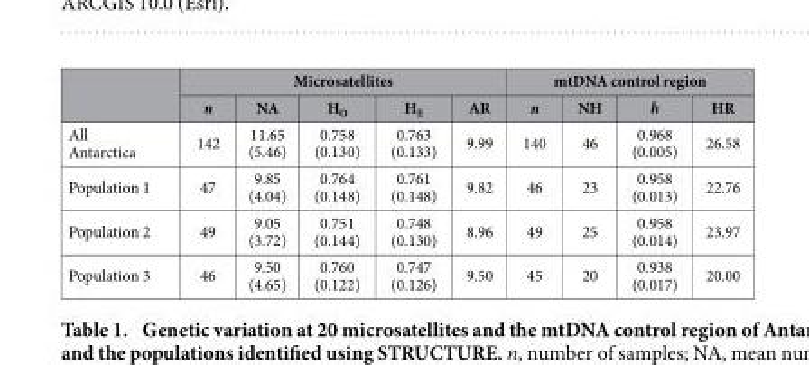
<table><thead><tr><td rowspan="2"></td><td colspan="5">Microsatellites</td><td colspan="4">mtDNA control region</td></tr><tr><td>n</td><td>NA</td><td>H<sub>O</sub></td><td>H<sub>E</sub></td><td>AR</td><td>n</td><td>NH</td><td>h</td><td>HR</td></tr></thead><tbody><tr><td>All Antarctica</td><td>142</td><td>11.65 (5.46)</td><td>0.758 (0.130)</td><td>0.763 (0.133)</td><td>9.99</td><td>140</td><td>46</td><td>0.968 (0.005)</td><td>26.58</td></tr><tr><td>Population 1</td><td>47</td><td>9.85 (4.04)</td><td>0.764 (0.148)</td><td>0.761 (0.148)</td><td>9.82</td><td>46</td><td>23</td><td>0.958 (0.013)</td><td>22.76</td></tr><tr><td>Population 2</td><td>49</td><td>9.05 (3.72)</td><td>0.751 (0.144)</td><td>0.748 (0.130)</td><td>8.96</td><td>49</td><td>25</td><td>0.958 (0.014)</td><td>23.97</td></tr><tr><td>Population 3</td><td>46</td><td>9.50 (4.65)</td><td>0.760 (0.122)</td><td>0.747 (0.126)</td><td>9.50</td><td>45</td><td>20</td><td>0.938 (0.017)</td><td>20.00</td></tr></tbody></table>